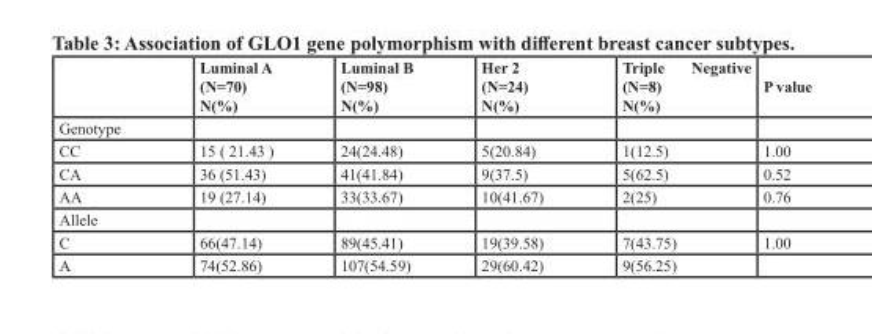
<table><thead><tr><td></td><td>Luminal A (N=70) N(%)</td><td>Luminal B (N=98) N(%)</td><td>Her 2 (N=24) N(%)</td><td>Triple Negative (N=8) N(%)</td><td>P value</td></tr></thead><tbody><tr><td colspan="6">Genotype</td></tr><tr><td>CC</td><td>15 ( 21.43 )</td><td>24(24.48)</td><td>5(20.84)</td><td>1(12.5)</td><td>1.00</td></tr><tr><td>CA</td><td>36 (51.43)</td><td>41(41.84)</td><td>9(37.5)</td><td>5(62.5)</td><td>0.52</td></tr><tr><td>AA</td><td>19 (27.14)</td><td>33(33.67)</td><td>10(41.67)</td><td>2(25)</td><td>0.76</td></tr><tr><td colspan="6">Allele</td></tr><tr><td>C</td><td>66(47.14)</td><td>89(45.41)</td><td>19(39.58)</td><td>7(43.75)</td><td>1.00</td></tr><tr><td>A</td><td>74(52.86)</td><td>107(54.59)</td><td>29(60.42)</td><td>9(56.25)</td><td></td></tr></tbody></table>